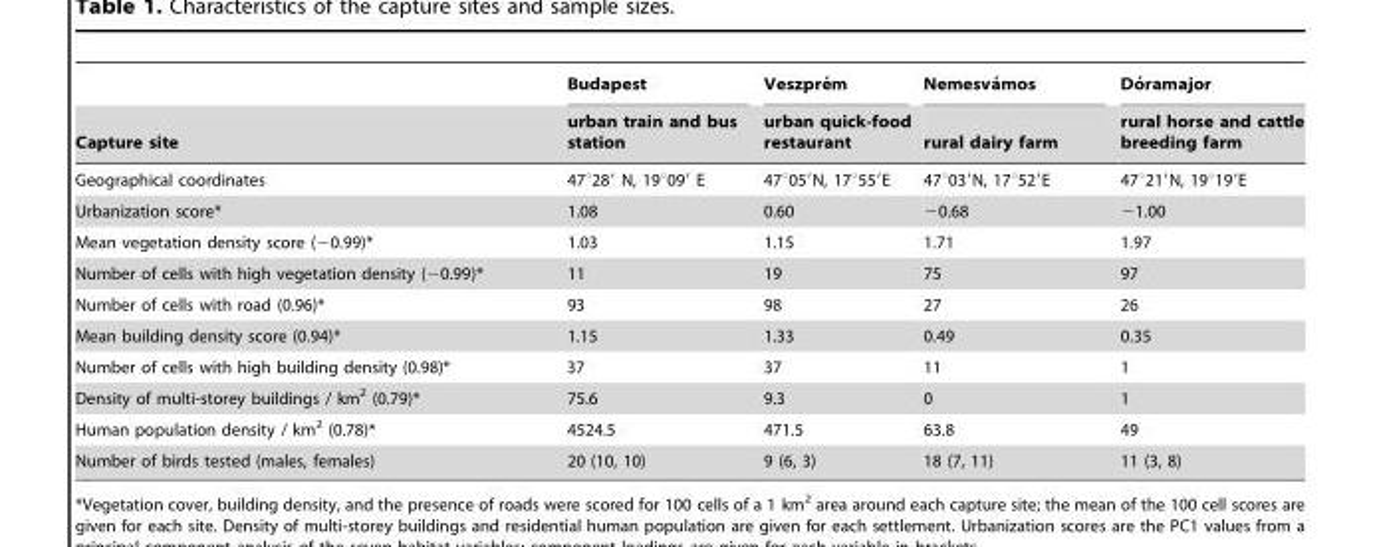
<table><thead><tr><td rowspan="2">Capture site</td><td rowspan="2">Budapest urban train and bus station</td><td rowspan="2">Veszpre´m urban quick-food restaurant</td><td rowspan="2">Nemesva´mos rural dairy farm</td><td rowspan="2">Do´ ramajor rural horse and cattle breeding farm</td></tr><tr></tr></thead><tbody><tr><td>Geographical coordinates</td><td>47°28′ N, 19°09′ E</td><td>47°05′N, 17°55′E</td><td>47°03′N, 17°52′E</td><td>47°21′N, 19°19′E</td></tr><tr><td>Urbanization score*</td><td>1.08</td><td>0.60</td><td>−0.68</td><td>−1.00</td></tr><tr><td>Mean vegetation density score (−0.99)*</td><td>1.03</td><td>1.15</td><td>1.71</td><td>1.97</td></tr><tr><td>Number of cells with high vegetation density (−0.99)*</td><td>11</td><td>19</td><td>75</td><td>97</td></tr><tr><td>Number of cells with road (0.96)*</td><td>93</td><td>98</td><td>27</td><td>26</td></tr><tr><td>Mean building density score (0.94)*</td><td>1.15</td><td>1.33</td><td>0.49</td><td>0.35</td></tr><tr><td>Number of cells with high building density (0.98)*</td><td>37</td><td>37</td><td>11</td><td>1</td></tr><tr><td>Density of multi-storey buildings / km<sup>2</sup> (0.79)*</td><td>75.6</td><td>9.3</td><td>0</td><td>1</td></tr><tr><td>Human population density / km<sup>2</sup> (0.78)*</td><td>4524.5</td><td>471.5</td><td>63.8</td><td>49</td></tr><tr><td>Number of birds tested (males, females)</td><td>20 (10, 10)</td><td>9 (6, 3)</td><td>18 (7, 11)</td><td>11 (3, 8)</td></tr></tbody></table>